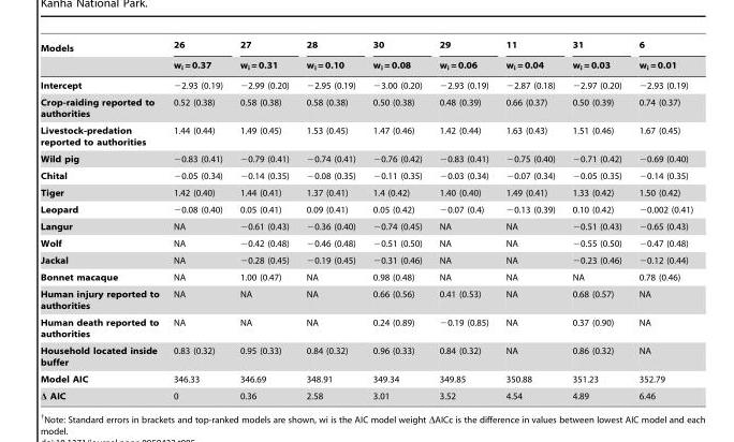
<table><thead><tr><td rowspan="2">Models</td><td rowspan="2">26 w<sub>i</sub> = 0.37</td><td rowspan="2">27 w<sub>i</sub> = 0.31</td><td rowspan="2">28 w<sub>i</sub> = 0.10</td><td rowspan="2">30 w<sub>i</sub> = 0.08</td><td rowspan="2">29 w<sub>i</sub> = 0.06</td><td rowspan="2">11 w<sub>i</sub> = 0.04</td><td rowspan="2">31 w<sub>i</sub> = 0.03</td><td rowspan="2">6 w<sub>i</sub> = 0.01</td></tr><tr></tr></thead><tbody><tr><td>Intercept</td><td>−2.93 (0.19)</td><td>−2.99 (0.20)</td><td>−2.95 (0.19)</td><td>−3.00 (0.20)</td><td>−2.93 (0.19)</td><td>−2.87 (0.18)</td><td>−2.97 (0.20)</td><td>−2.93 (0.19)</td></tr><tr><td>Crop-raiding reported to authorities</td><td>0.52 (0.38)</td><td>0.58 (0.38)</td><td>0.58 (0.38)</td><td>0.50 (0.38)</td><td>0.48 (0.39)</td><td>0.66 (0.37)</td><td>0.50 (0.39)</td><td>0.74 (0.37)</td></tr><tr><td>Livestock-predation reported to authorities</td><td>1.44 (0.44)</td><td>1.49 (0.45)</td><td>1.53 (0.45)</td><td>1.47 (0.46)</td><td>1.42 (0.44)</td><td>1.63 (0.43)</td><td>1.51 (0.46)</td><td>1.67 (0.45)</td></tr><tr><td>Wild pig</td><td>−0.83 (0.41)</td><td>−0.79 (0.41)</td><td>−0.74 (0.41)</td><td>−0.76 (0.42)</td><td>−0.83 (0.41)</td><td>−0.75 (0.40)</td><td>−0.71 (0.42)</td><td>−0.69 (0.40)</td></tr><tr><td>Chital</td><td>−0.05 (0.34)</td><td>−0.14 (0.35)</td><td>−0.08 (0.35)</td><td>−0.11 (0.35)</td><td>−0.03 (0.34)</td><td>−0.07 (0.34)</td><td>−0.05 (0.35)</td><td>−0.14 (0.35)</td></tr><tr><td>Tiger</td><td>1.42 (0.40)</td><td>1.44 (0.41)</td><td>1.37 (0.41)</td><td>1.4 (0.42)</td><td>1.40 (0.40)</td><td>1.49 (0.41)</td><td>1.33 (0.42)</td><td>1.50 (0.42)</td></tr><tr><td>Leopard</td><td>−0.08 (0.40)</td><td>0.05 (0.41)</td><td>0.09 (0.41)</td><td>0.05 (0.42)</td><td>−0.07 (0.4)</td><td>−0.13 (0.39)</td><td>0.10 (0.42)</td><td>−0.002 (0.41)</td></tr><tr><td>Langur</td><td>NA</td><td>−0.61 (0.43)</td><td>−0.36 (0.40)</td><td>−0.74 (0.45)</td><td>NA</td><td>NA</td><td>−0.51 (0.43)</td><td>−0.65 (0.43)</td></tr><tr><td>Wolf</td><td>NA</td><td>−0.42 (0.48)</td><td>−0.46 (0.48)</td><td>−0.51 (0.50)</td><td>NA</td><td>NA</td><td>−0.55 (0.50)</td><td>−0.47 (0.48)</td></tr><tr><td>Jackal</td><td>NA</td><td>−0.28 (0.45)</td><td>−0.19 (0.45)</td><td>−0.31 (0.46)</td><td>NA</td><td>NA</td><td>−0.23 (0.46)</td><td>−0.12 (0.44)</td></tr><tr><td>Bonnet macaque</td><td>NA</td><td>1.00 (0.47)</td><td>NA</td><td>0.98 (0.48)</td><td>NA</td><td>NA</td><td>NA</td><td>0.78 (0.46)</td></tr><tr><td>Human injury reported to authorities</td><td>NA</td><td>NA</td><td>NA</td><td>0.66 (0.56)</td><td>0.41 (0.53)</td><td>NA</td><td>0.68 (0.57)</td><td>NA</td></tr><tr><td>Human death reported to authorities</td><td>NA</td><td>NA</td><td>NA</td><td>0.24 (0.89)</td><td>−0.19 (0.85)</td><td>NA</td><td>0.37 (0.90)</td><td>NA</td></tr><tr><td>Household located inside buffer</td><td>0.83 (0.32)</td><td>0.95 (0.33)</td><td>0.84 (0.32)</td><td>0.96 (0.33)</td><td>0.84 (0.32)</td><td>NA</td><td>0.86 (0.32)</td><td>NA</td></tr><tr><td>Model AIC</td><td>346.33</td><td>346.69</td><td>348.91</td><td>349.34</td><td>349.85</td><td>350.88</td><td>351.23</td><td>352.79</td></tr><tr><td>Δ AIC</td><td>0</td><td>0.36</td><td>2.58</td><td>3.01</td><td>3.52</td><td>4.54</td><td>4.89</td><td>6.46</td></tr></tbody></table>